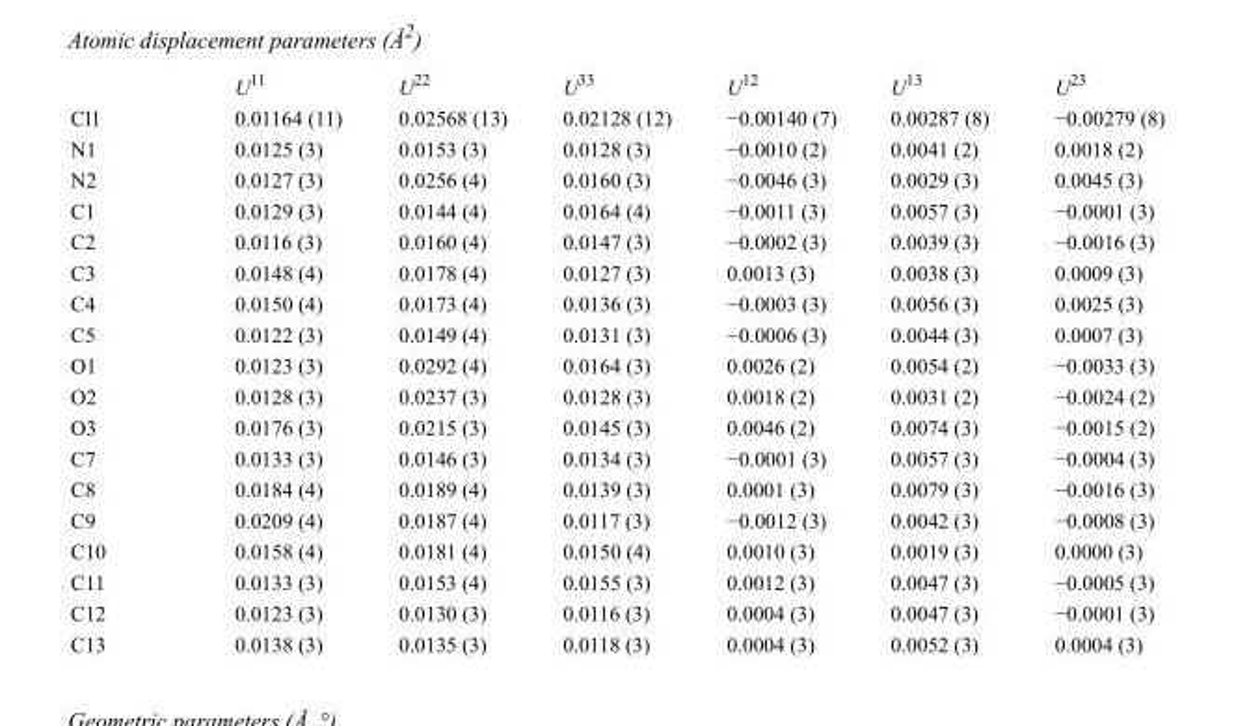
<table><thead><tr><td></td><td>U<sup>11</sup></td><td>U<sup>22</sup></td><td>U<sup>33</sup></td><td>U<sup>12</sup></td><td>U<sup>13</sup></td><td>U<sup>23</sup></td></tr></thead><tbody><tr><td>Cl1</td><td>0.01164 (11)</td><td>0.02568 (13)</td><td>0.02128 (12)</td><td>−0.00140 (7)</td><td>0.00287 (8)</td><td>−0.00279 (8)</td></tr><tr><td>N1</td><td>0.0125 (3)</td><td>0.0153 (3)</td><td>0.0128 (3)</td><td>−0.0010 (2)</td><td>0.0041 (2)</td><td>0.0018 (2)</td></tr><tr><td>N2</td><td>0.0127 (3)</td><td>0.0256 (4)</td><td>0.0160 (3)</td><td>−0.0046 (3)</td><td>0.0029 (3)</td><td>0.0045 (3)</td></tr><tr><td>C1</td><td>0.0129 (3)</td><td>0.0144 (4)</td><td>0.0164 (4)</td><td>−0.0011 (3)</td><td>0.0057 (3)</td><td>−0.0001 (3)</td></tr><tr><td>C2</td><td>0.0116 (3)</td><td>0.0160 (4)</td><td>0.0147 (3)</td><td>−0.0002 (3)</td><td>0.0039 (3)</td><td>−0.0016 (3)</td></tr><tr><td>C3</td><td>0.0148 (4)</td><td>0.0178 (4)</td><td>0.0127 (3)</td><td>0.0013 (3)</td><td>0.0038 (3)</td><td>0.0009 (3)</td></tr><tr><td>C4</td><td>0.0150 (4)</td><td>0.0173 (4)</td><td>0.0136 (3)</td><td>−0.0003 (3)</td><td>0.0056 (3)</td><td>0.0025 (3)</td></tr><tr><td>C5</td><td>0.0122 (3)</td><td>0.0149 (4)</td><td>0.0131 (3)</td><td>−0.0006 (3)</td><td>0.0044 (3)</td><td>0.0007 (3)</td></tr><tr><td>O1</td><td>0.0123 (3)</td><td>0.0292 (4)</td><td>0.0164 (3)</td><td>0.0026 (2)</td><td>0.0054 (2)</td><td>−0.0033 (3)</td></tr><tr><td>O2</td><td>0.0128 (3)</td><td>0.0237 (3)</td><td>0.0128 (3)</td><td>0.0018 (2)</td><td>0.0031 (2)</td><td>−0.0024 (2)</td></tr><tr><td>O3</td><td>0.0176 (3)</td><td>0.0215 (3)</td><td>0.0145 (3)</td><td>0.0046 (2)</td><td>0.0074 (3)</td><td>−0.0015 (2)</td></tr><tr><td>C7</td><td>0.0133 (3)</td><td>0.0146 (3)</td><td>0.0134 (3)</td><td>−0.0001 (3)</td><td>0.0057 (3)</td><td>−0.0004 (3)</td></tr><tr><td>C8</td><td>0.0184 (4)</td><td>0.0189 (4)</td><td>0.0139 (3)</td><td>0.0001 (3)</td><td>0.0079 (3)</td><td>−0.0016 (3)</td></tr><tr><td>C9</td><td>0.0209 (4)</td><td>0.0187 (4)</td><td>0.0117 (3)</td><td>−0.0012 (3)</td><td>0.0042 (3)</td><td>−0.0008 (3)</td></tr><tr><td>C10</td><td>0.0158 (4)</td><td>0.0181 (4)</td><td>0.0150 (4)</td><td>0.0010 (3)</td><td>0.0019 (3)</td><td>0.0000 (3)</td></tr><tr><td>C11</td><td>0.0133 (3)</td><td>0.0153 (4)</td><td>0.0155 (3)</td><td>0.0012 (3)</td><td>0.0047 (3)</td><td>−0.0005 (3)</td></tr><tr><td>C12</td><td>0.0123 (3)</td><td>0.0130 (3)</td><td>0.0116 (3)</td><td>0.0004 (3)</td><td>0.0047 (3)</td><td>−0.0001 (3)</td></tr><tr><td>C13</td><td>0.0138 (3)</td><td>0.0135 (3)</td><td>0.0118 (3)</td><td>0.0004 (3)</td><td>0.0052 (3)</td><td>0.0004 (3)</td></tr></tbody></table>